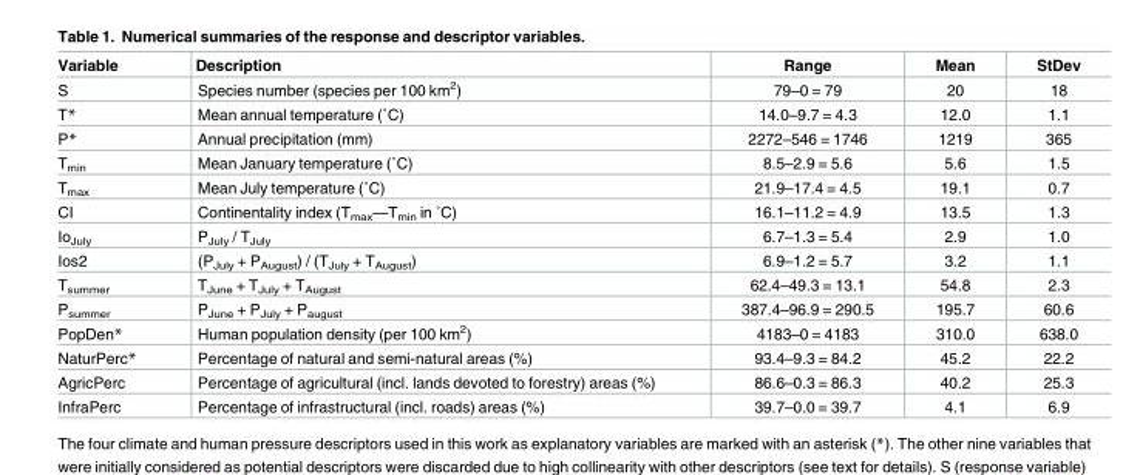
<table><thead><tr><td>Variable</td><td>Description</td><td>Range</td><td>Mean</td><td>StDev</td></tr></thead><tbody><tr><td>S</td><td>Species number (species per 100 km<sup>2</sup>)</td><td>79–0 = 79</td><td>20</td><td>18</td></tr><tr><td>T*</td><td>Mean annual temperature (˚C)</td><td>14.0–9.7 = 4.3</td><td>12.0</td><td>1.1</td></tr><tr><td>P*</td><td>Annual precipitation (mm)</td><td>2272–546 = 1746</td><td>1219</td><td>365</td></tr><tr><td>T<sub>min</sub></td><td>Mean January temperature (˚C)</td><td>8.5–2.9 = 5.6</td><td>5.6</td><td>1.5</td></tr><tr><td>T<sub>max</sub></td><td>Mean July temperature (˚C)</td><td>21.9–17.4 = 4.5</td><td>19.1</td><td>0.7</td></tr><tr><td>CI</td><td>Continentality index (Tmax—Tmin in ˚C)</td><td>16.1–11.2 = 4.9</td><td>13.5</td><td>1.3</td></tr><tr><td>Io<sub>July</sub></td><td>P<sub>July</sub> / T<sub>July</sub></td><td>6.7–1.3 = 5.4</td><td>2.9</td><td>1.0</td></tr><tr><td>Ios2</td><td>(P<sub>July</sub> + P<sub>August</sub>) / (T<sub>July</sub> + T<sub>August</sub>)</td><td>6.9–1.2 = 5.7</td><td>3.2</td><td>1.1</td></tr><tr><td>T<sub>summer</sub></td><td>T<sub>June</sub> + T<sub>July</sub> + T<sub>August</sub></td><td>62.4–49.3 = 13.1</td><td>54.8</td><td>2.3</td></tr><tr><td>P<sub>summer</sub></td><td>P<sub>June</sub> + P<sub>July</sub> + P<sub>august</sub></td><td>387.4–96.9 = 290.5</td><td>195.7</td><td>60.6</td></tr><tr><td>PopDen*</td><td>Human population density (per 100 km<sup>2</sup>)</td><td>4183–0 = 4183</td><td>310.0</td><td>638.0</td></tr><tr><td>NaturPerc*</td><td>Percentage of natural and semi-natural areas (%)</td><td>93.4–9.3 = 84.2</td><td>45.2</td><td>22.2</td></tr><tr><td>AgricPerc</td><td>Percentage of agricultural (incl. lands devoted to forestry) areas (%)</td><td>86.6–0.3 = 86.3</td><td>40.2</td><td>25.3</td></tr><tr><td>InfraPerc</td><td>Percentage of infrastructural (incl. roads) areas (%)</td><td>39.7–0.0 = 39.7</td><td>4.1</td><td>6.9</td></tr></tbody></table>